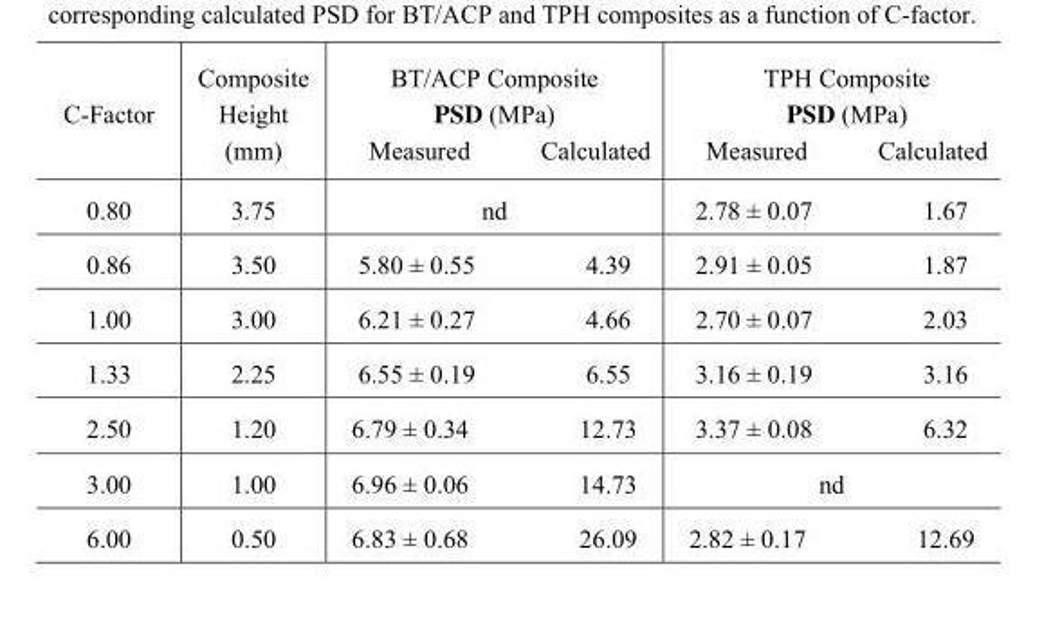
<table><tbody><tr><td>C-Factor</td><td>Composite Height (mm)</td><td>BT/ACP Composite PSD (MPa) Measured Calculated</td><td>TPH Composite PSD (MPa) Measured Calculated</td></tr><tr><td>0.80</td><td>3.75</td><td>nd</td><td>2.78 ± 0.07 1.67</td></tr><tr><td>0.86</td><td>3.50</td><td>5.80 ± 0.55 4.39</td><td>2.91 ± 0.05 1.87</td></tr><tr><td>1.00</td><td>3.00</td><td>6.21 ± 0.27 4.66</td><td>2.70 ± 0.07 2.03</td></tr><tr><td>1.33</td><td>2.25</td><td>6.55 ± 0.19 6.55</td><td>3.16 ± 0.19 3.16</td></tr><tr><td>2.50</td><td>1.20</td><td>6.79 ± 0.34 12.73</td><td>3.37 ± 0.08 6.32</td></tr><tr><td>3.00</td><td>1.00</td><td>6.96 ± 0.06 14.73</td><td>nd</td></tr><tr><td>6.00</td><td>0.50</td><td>6.83 ± 0.68 26.09</td><td>2.82 ± 0.17 12.69</td></tr></tbody></table>